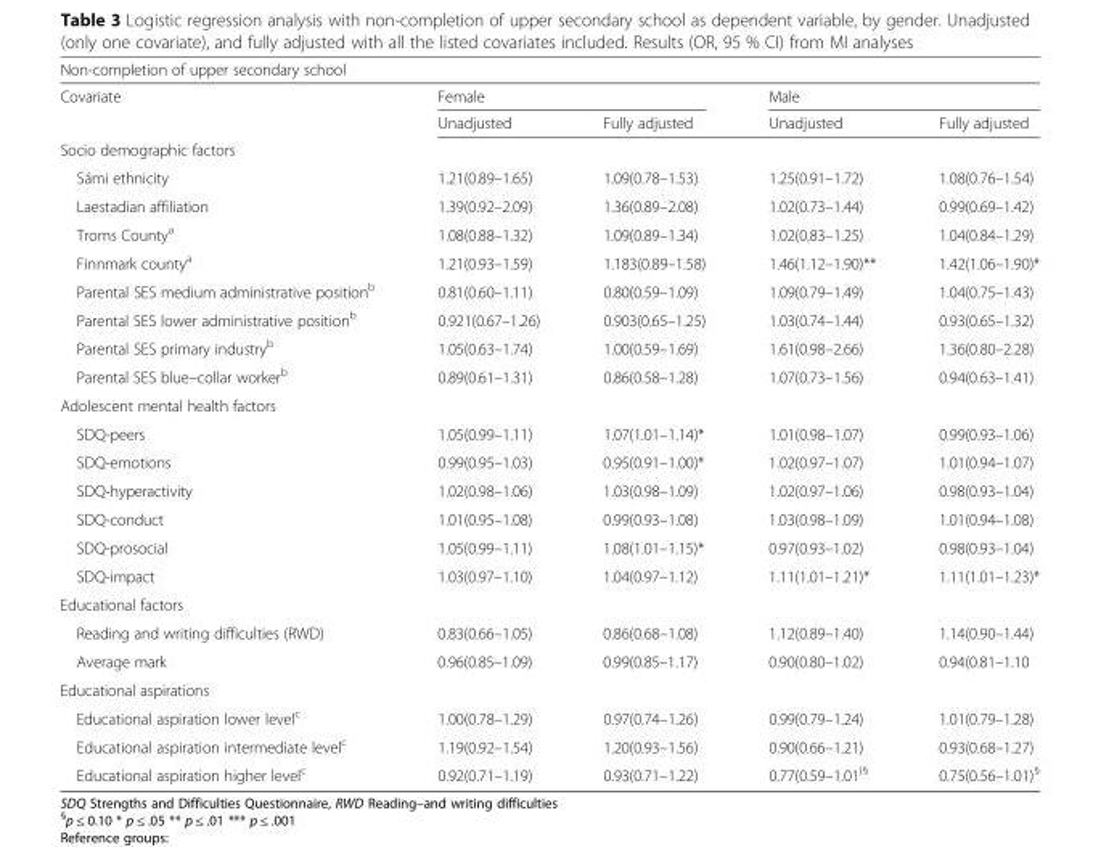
<table><thead><tr><td colspan="5">Non-completion of upper secondary school</td></tr><tr><td rowspan="2">Covariate</td><td colspan="2">Female</td><td colspan="2">Male</td></tr><tr><td>Unadjusted</td><td>Fully adjusted</td><td>Unadjusted</td><td>Fully adjusted</td></tr></thead><tbody><tr><td colspan="5">Socio demographic factors</td></tr><tr><td>Sámi ethnicity</td><td>1.21(0.89–1.65)</td><td>1.09(0.78–1.53)</td><td>1.25(0.91–1.72)</td><td>1.08(0.76–1.54)</td></tr><tr><td>Laestadian affiliation</td><td>1.39(0.92–2.09)</td><td>1.36(0.89–2.08)</td><td>1.02(0.73–1.44)</td><td>0.99(0.69–1.42)</td></tr><tr><td>Troms County<sup>a</sup></td><td>1.08(0.88–1.32)</td><td>1.09(0.89–1.34)</td><td>1.02(0.83–1.25)</td><td>1.04(0.84–1.29)</td></tr><tr><td>Finnmark county<sup>a</sup></td><td>1.21(0.93–1.59)</td><td>1.183(0.89–1.58)</td><td>1.46(1.12–1.90)**</td><td>1.42(1.06–1.90)*</td></tr><tr><td>Parental SES medium administrative position<sup>b</sup></td><td>0.81(0.60–1.11)</td><td>0.80(0.59–1.09)</td><td>1.09(0.79–1.49)</td><td>1.04(0.75–1.43)</td></tr><tr><td>Parental SES lower administrative position<sup>b</sup></td><td>0.921(0.67–1.26)</td><td>0.903(0.65–1.25)</td><td>1.03(0.74–1.44)</td><td>0.93(0.65–1.32)</td></tr><tr><td>Parental SES primary industry<sup>b</sup></td><td>1.05(0.63–1.74)</td><td>1.00(0.59–1.69)</td><td>1.61(0.98–2.66)</td><td>1.36(0.80–2.28)</td></tr><tr><td>Parental SES blue–collar worker<sup>b</sup></td><td>0.89(0.61–1.31)</td><td>0.86(0.58–1.28)</td><td>1.07(0.73–1.56)</td><td>0.94(0.63–1.41)</td></tr><tr><td colspan="5">Adolescent mental health factors</td></tr><tr><td>SDQ-peers</td><td>1.05(0.99–1.11)</td><td>1.07(1.01–1.14)*</td><td>1.01(0.98–1.07)</td><td>0.99(0.93–1.06)</td></tr><tr><td>SDQ-emotions</td><td>0.99(0.95–1.03)</td><td>0.95(0.91–1.00)*</td><td>1.02(0.97–1.07)</td><td>1.01(0.94–1.07)</td></tr><tr><td>SDQ-hyperactivity</td><td>1.02(0.98–1.06)</td><td>1.03(0.98–1.09)</td><td>1.02(0.97–1.06)</td><td>0.98(0.93–1.04)</td></tr><tr><td>SDQ-conduct</td><td>1.01(0.95–1.08)</td><td>0.99(0.93–1.08)</td><td>1.03(0.98–1.09)</td><td>1.01(0.94–1.08)</td></tr><tr><td>SDQ-prosocial</td><td>1.05(0.99–1.11)</td><td>1.08(1.01–1.15)*</td><td>0.97(0.93–1.02)</td><td>0.98(0.93–1.04)</td></tr><tr><td>SDQ-impact</td><td>1.03(0.97–1.10)</td><td>1.04(0.97–1.12)</td><td>1.11(1.01–1.21)*</td><td>1.11(1.01–1.23)*</td></tr><tr><td colspan="5">Educational factors</td></tr><tr><td>Reading and writing difficulties (RWD)</td><td>0.83(0.66–1.05)</td><td>0.86(0.68–1.08)</td><td>1.12(0.89–1.40)</td><td>1.14(0.90–1.44)</td></tr><tr><td>Average mark</td><td>0.96(0.85–1.09)</td><td>0.99(0.85–1.17)</td><td>0.90(0.80–1.02)</td><td>0.94(0.81–1.10</td></tr><tr><td colspan="5">Educational aspirations</td></tr><tr><td>Educational aspiration lower level<sup>c</sup></td><td>1.00(0.78–1.29)</td><td>0.97(0.74–1.26)</td><td>0.99(0.79–1.24)</td><td>1.01(0.79–1.28)</td></tr><tr><td>Educational aspiration intermediate level<sup>c</sup></td><td>1.19(0.92–1.54)</td><td>1.20(0.93–1.56)</td><td>0.90(0.66–1.21)</td><td>0.93(0.68–1.27)</td></tr><tr><td>Educational aspiration higher level<sup>c</sup></td><td>0.92(0.71–1.19)</td><td>0.93(0.71–1.22)</td><td>0.77(0.59–1.01<sup>)§</sup></td><td>0.75(0.56–1.01)<sup>§</sup></td></tr></tbody></table>